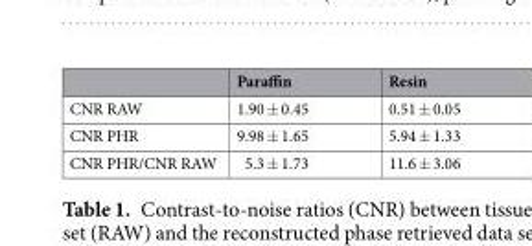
<table><thead><tr><td></td><td>Paraffin</td><td>Resin</td></tr></thead><tbody><tr><td>CNR RAW</td><td>1.90 ± 0.45</td><td>0.51 ± 0.05</td></tr><tr><td>CNR PHR</td><td>9.98 ± 1.65</td><td>5.94 ± 1.33</td></tr><tr><td>CNR PHR/CNR RAW</td><td>5.3 ± 1.73</td><td>11.6 ± 3.06</td></tr></tbody></table>